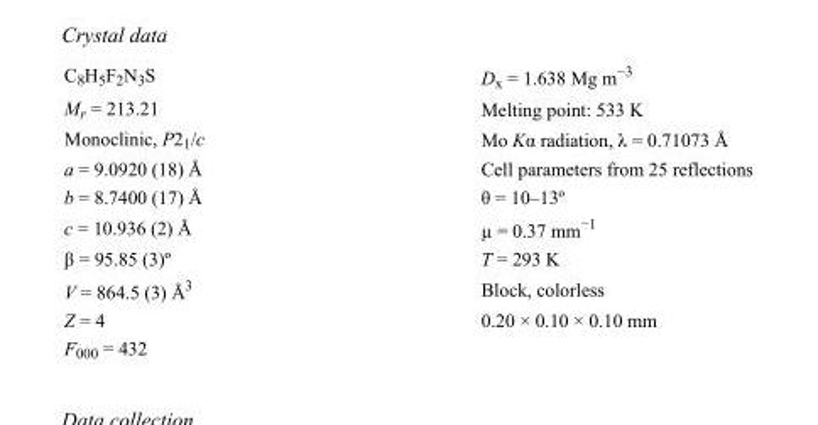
<table><tbody><tr><td>C<sub>8</sub>H<sub>5</sub>F<sub>2</sub>N<sub>3</sub>S</td><td>D<sub>x</sub> = 1.638 Mg m<sup>−3</sup></td></tr><tr><td>M<sub>r</sub> = 213.21</td><td>Melting point: 533 K</td></tr><tr><td>Monoclinic, P2<sub>1</sub>/c</td><td>Mo Kα radiation, λ = 0.71073 Å</td></tr><tr><td>a = 9.0920 (18) Å</td><td>Cell parameters from 25 reflections</td></tr><tr><td>b = 8.7400 (17) Å</td><td>θ = 10–13º</td></tr><tr><td>c = 10.936 (2) Å</td><td>µ = 0.37 mm<sup>−1</sup></td></tr><tr><td>β = 95.85 (3)º</td><td>T = 293 K</td></tr><tr><td>V = 864.5 (3) Å<sup>3</sup></td><td>Block, colorless</td></tr><tr><td>Z = 4</td><td>0.20 × 0.10 × 0.10 mm</td></tr><tr><td>F000 = 432</td><td></td></tr></tbody></table>